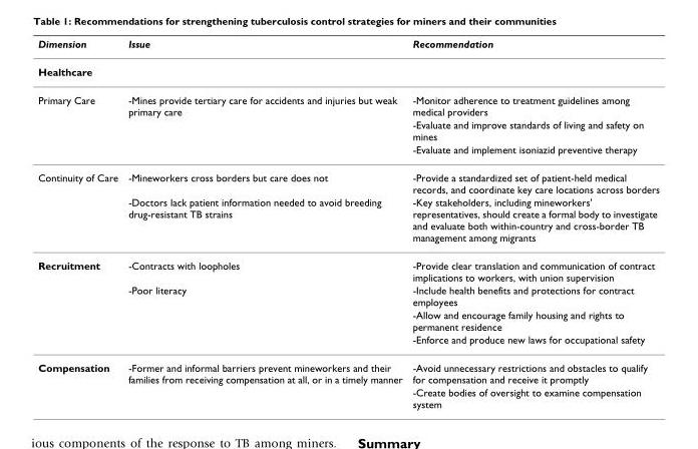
<table><thead><tr><td>Dimension</td><td>Issue</td><td>Recommendation</td></tr></thead><tbody><tr><td colspan="3">Healthcare</td></tr><tr><td rowspan="3">Primary Care</td><td>-Mines provide tertiary care for accidents and injuries but weak primary care</td><td>-Monitor adherence to treatment guidelines among medical providers</td></tr><tr><td></td><td>-Evaluate and improve standards of living and safety on mines</td></tr><tr><td></td><td>-Evaluate and implement isoniazid preventive therapy</td></tr><tr><td rowspan="2">Continuity of Care</td><td>-Mineworkers cross borders but care does not</td><td>-Provide a standardized set of patient-held medical records, and coordinate key care locations across borders</td></tr><tr><td>-Doctors lack patient information needed to avoid breeding drug-resistant TB strains</td><td>-Key stakeholders, including mineworkers&#x27; representatives, should create a formal body to investigate and evaluate both within-country and cross-border TB management among migrants</td></tr><tr><td rowspan="4">Recruitment</td><td>-Contracts with loopholes</td><td>-Provide clear translation and communication of contract implications to workers, with union supervision</td></tr><tr><td>-Poor literacy</td><td>-Include health benefits and protections for contract employees</td></tr><tr><td></td><td>-Allow and encourage family housing and rights to permanent residence</td></tr><tr><td></td><td>-Enforce and produce new laws for occupational safety</td></tr><tr><td rowspan="2">Compensation</td><td>-Former and informal barriers prevent mineworkers and their families from receiving compensation at all, or in a timely manner</td><td>-Avoid unnecessary restrictions and obstacles to qualify for compensation and receive it promptly</td></tr><tr><td></td><td>-Create bodies of oversight to examine compensation system</td></tr></tbody></table>